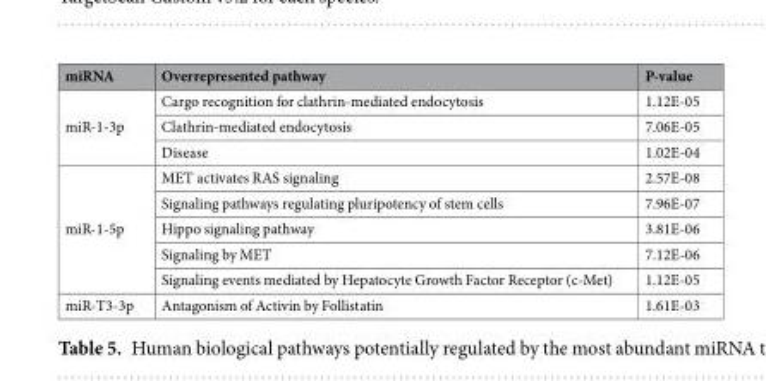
<table><thead><tr><td>miRNA</td><td>Overrepresented pathway</td><td>P-value</td></tr></thead><tbody><tr><td rowspan="3">miR-1-3p</td><td>Cargo recognition for clathrin-mediated endocytosis</td><td>1.12E-05</td></tr><tr><td>Clathrin-mediated endocytosis</td><td>7.06E-05</td></tr><tr><td>Disease</td><td>1.02E-04</td></tr><tr><td rowspan="5">miR-1-5p</td><td>MET activates RAS signaling</td><td>2.57E-08</td></tr><tr><td>Signaling pathways regulating pluripotency of stem cells</td><td>7.96E-07</td></tr><tr><td>Hippo signaling pathway</td><td>3.81E-06</td></tr><tr><td>Signaling by MET</td><td>7.12E-06</td></tr><tr><td>Signaling events mediated by Hepatocyte Growth Factor Receptor (c-Met)</td><td>1.12E-05</td></tr><tr><td>miR-T3-3p</td><td>Antagonism of Activin by Follistatin</td><td>1.61E-03</td></tr></tbody></table>